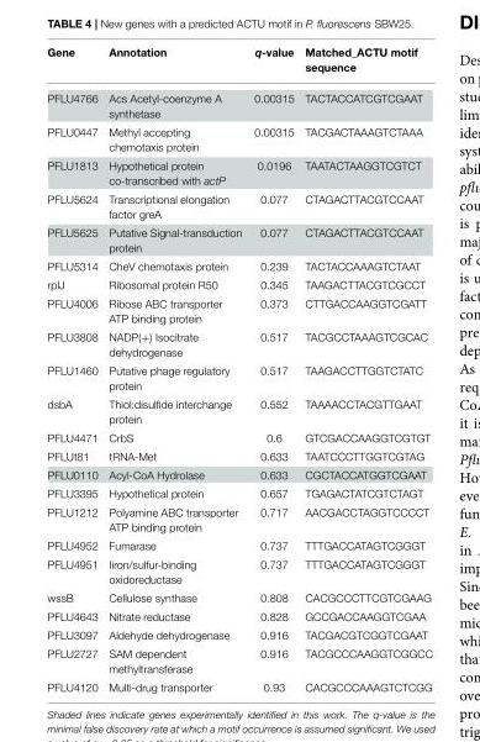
<table><thead><tr><td>Gene</td><td>Annotation</td><td>q-value</td><td>Matched_ACTU motif sequence</td></tr></thead><tbody><tr><td>PFLU4766</td><td>Acs Acetyl-coenzyme A synthetase</td><td>0.00315</td><td>TACTACCATCGTCGAAT</td></tr><tr><td>PFLU0447</td><td>Methyl accepting chemotaxis protein</td><td>0.00315</td><td>TACGACTAAAGTCTAAA</td></tr><tr><td>PFLU1813</td><td>Hypothetical protein co-transcribed with actP</td><td>0.0196</td><td>TAATACTAAGGTCGTCT</td></tr><tr><td>PFLU5624</td><td>Transcriptional elongation factor greA</td><td>0.077</td><td>CTAGACTTACGTCCAAT</td></tr><tr><td>PFLU5625</td><td>Putative Signal-transduction protein</td><td>0.077</td><td>CTAGACTTACGTCCAAT</td></tr><tr><td>PFLU5314</td><td>CheV chemotaxis protein</td><td>0.239</td><td>TACTACCAAAGTCTAAT</td></tr><tr><td>rplJ</td><td>Ribosomal protein R50</td><td>0.345</td><td>TAAGACTTACGTCGCCT</td></tr><tr><td>PFLU4006</td><td>Ribose ABC transporter ATP binding protein</td><td>0.373</td><td>CTTGACCAAGGTCGATT</td></tr><tr><td>PFLU3808</td><td>NADP(+) Isocitrate dehydrogenase</td><td>0.517</td><td>TACGCCTAAAGTCGCAC</td></tr><tr><td>PFLU1460</td><td>Putative phage regulatory protein</td><td>0.517</td><td>TAAGACCTTGGTCTATC</td></tr><tr><td>dsbA</td><td>Thiol:disulfide interchange protein</td><td>0.552</td><td>TAAAACCTACGTTGAAT</td></tr><tr><td>PFLU4471</td><td>CrbS</td><td>0.6</td><td>GTCGACCAAGGTCGTGT</td></tr><tr><td>PFLUt81</td><td>tRNA-Met</td><td>0.633</td><td>TAATCCCTTGGTCGTAG</td></tr><tr><td>PFLU0110</td><td>Acyl-CoA Hydrolase</td><td>0.633</td><td>CGCTACCATGGTCGAAT</td></tr><tr><td>PFLU3395</td><td>Hypothetical protein</td><td>0.657</td><td>TGAGACTATCGTCTAGT</td></tr><tr><td>PFLU1212</td><td>Polyamine ABC transporter ATP binding protein</td><td>0.717</td><td>AACGACCTAGGTCCCCT</td></tr><tr><td>PFLU4952</td><td>Fumarase</td><td>0.737</td><td>TTTGACCATAGTCGGGT</td></tr><tr><td>PFLU4951</td><td>Iiron/sulfur-binding oxidoreductase</td><td>0.737</td><td>TTTGACCATAGTCGGGT</td></tr><tr><td>wssB</td><td>Cellulose synthase</td><td>0.808</td><td>CACGCCCTTCGTCGAAG</td></tr><tr><td>PFLU4643</td><td>Nitrate reductase</td><td>0.828</td><td>GCCGACCAAGGTCGAA</td></tr><tr><td>PFLU3097</td><td>Aldehyde dehydrogenase</td><td>0.916</td><td>TACGACGTCGGTCGAAT</td></tr><tr><td>PFLU2727</td><td>SAM dependent methyltransferase</td><td>0.916</td><td>TACGCCCAAGGTCGGCC</td></tr><tr><td>PFLU4120</td><td>Multi-drug transporter</td><td>0.93</td><td>CACGCCCAAAGTCTCGG</td></tr></tbody></table>